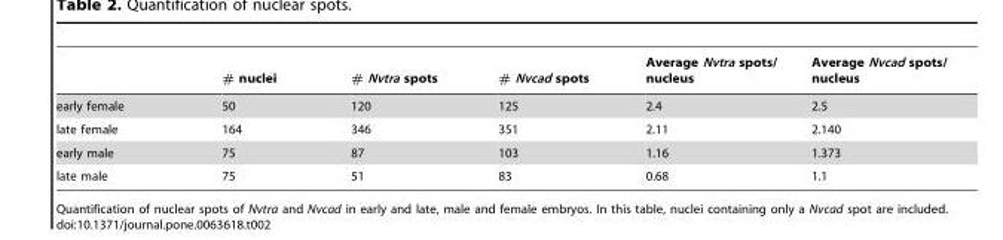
<table><thead><tr><td></td><td># nuclei</td><td># Nvtra spots</td><td># Nvcad spots</td><td>Average Nvtra spots/ nucleus</td><td>Average Nvcad spots/ nucleus</td></tr></thead><tbody><tr><td>early female</td><td>50</td><td>120</td><td>125</td><td>2.4</td><td>2.5</td></tr><tr><td>late female</td><td>164</td><td>346</td><td>351</td><td>2.11</td><td>2.140</td></tr><tr><td>early male</td><td>75</td><td>87</td><td>103</td><td>1.16</td><td>1.373</td></tr><tr><td>late male</td><td>75</td><td>51</td><td>83</td><td>0.68</td><td>1.1</td></tr></tbody></table>